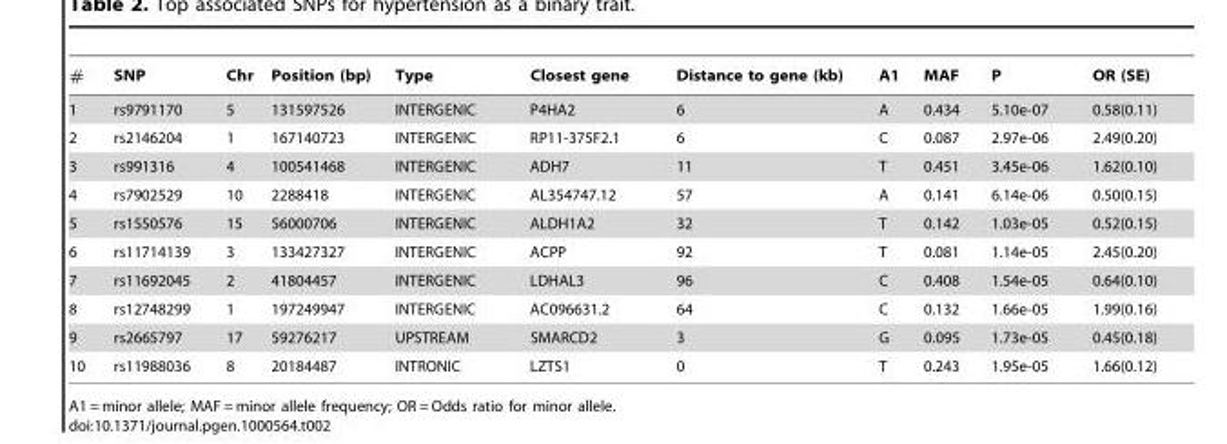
<table><thead><tr><td>#</td><td>SNP</td><td>Chr</td><td>Position (bp)</td><td>Type</td><td>Closest gene</td><td>Distance to gene (kb)</td><td>A1</td><td>MAF</td><td>P</td><td>OR (SE)</td></tr></thead><tbody><tr><td>1</td><td>rs9791170</td><td>5</td><td>131597526</td><td>INTERGENIC</td><td>P4HA2</td><td>6</td><td>A</td><td>0.434</td><td>5.10e-07</td><td>0.58(0.11)</td></tr><tr><td>2</td><td>rs2146204</td><td>1</td><td>167140723</td><td>INTERGENIC</td><td>RP11-375F2.1</td><td>6</td><td>C</td><td>0.087</td><td>2.97e-06</td><td>2.49(0.20)</td></tr><tr><td>3</td><td>rs991316</td><td>4</td><td>100541468</td><td>INTERGENIC</td><td>ADH7</td><td>11</td><td>T</td><td>0.451</td><td>3.45e-06</td><td>1.62(0.10)</td></tr><tr><td>4</td><td>rs7902529</td><td>10</td><td>2288418</td><td>INTERGENIC</td><td>AL354747.12</td><td>57</td><td>A</td><td>0.141</td><td>6.14e-06</td><td>0.50(0.15)</td></tr><tr><td>5</td><td>rs1550576</td><td>15</td><td>56000706</td><td>INTERGENIC</td><td>ALDH1A2</td><td>32</td><td>T</td><td>0.142</td><td>1.03e-05</td><td>0.52(0.15)</td></tr><tr><td>6</td><td>rs11714139</td><td>3</td><td>133427327</td><td>INTERGENIC</td><td>ACPP</td><td>92</td><td>T</td><td>0.081</td><td>1.14e-05</td><td>2.45(0.20)</td></tr><tr><td>7</td><td>rs11692045</td><td>2</td><td>41804457</td><td>INTERGENIC</td><td>LDHAL3</td><td>96</td><td>C</td><td>0.408</td><td>1.54e-05</td><td>0.64(0.10)</td></tr><tr><td>8</td><td>rs12748299</td><td>1</td><td>197249947</td><td>INTERGENIC</td><td>AC096631.2</td><td>64</td><td>C</td><td>0.132</td><td>1.66e-05</td><td>1.99(0.16)</td></tr><tr><td>9</td><td>rs2665797</td><td>17</td><td>59276217</td><td>UPSTREAM</td><td>SMARCD2</td><td>3</td><td>G</td><td>0.095</td><td>1.73e-05</td><td>0.45(0.18)</td></tr><tr><td>10</td><td>rs11988036</td><td>8</td><td>20184487</td><td>INTRONIC</td><td>LZTS1</td><td>0</td><td>T</td><td>0.243</td><td>1.95e-05</td><td>1.66(0.12)</td></tr></tbody></table>